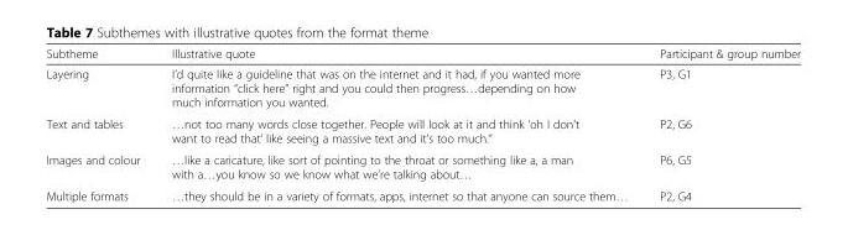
<table><thead><tr><td>Subtheme</td><td>Illustrative quote</td><td>Participant &amp; group number</td></tr></thead><tbody><tr><td>Layering</td><td>I’d quite like a guideline that was on the internet and it had, if you wanted more information “click here” right and you could then progress…depending on how much information you wanted.</td><td>P3, G1</td></tr><tr><td>Text and tables</td><td>…not too many words close together. People will look at it and think ‘oh I don’t want to read that’ like seeing a massive text and it’s too much.”</td><td>P2, G6</td></tr><tr><td>Images and colour</td><td>…like a caricature, like sort of pointing to the throat or something like a, a man with a…you know so we know what we’re talking about…</td><td>P6, G5</td></tr><tr><td>Multiple formats</td><td>…they should be in a variety of formats, apps, internet so that anyone can source them…</td><td>P2, G4</td></tr></tbody></table>